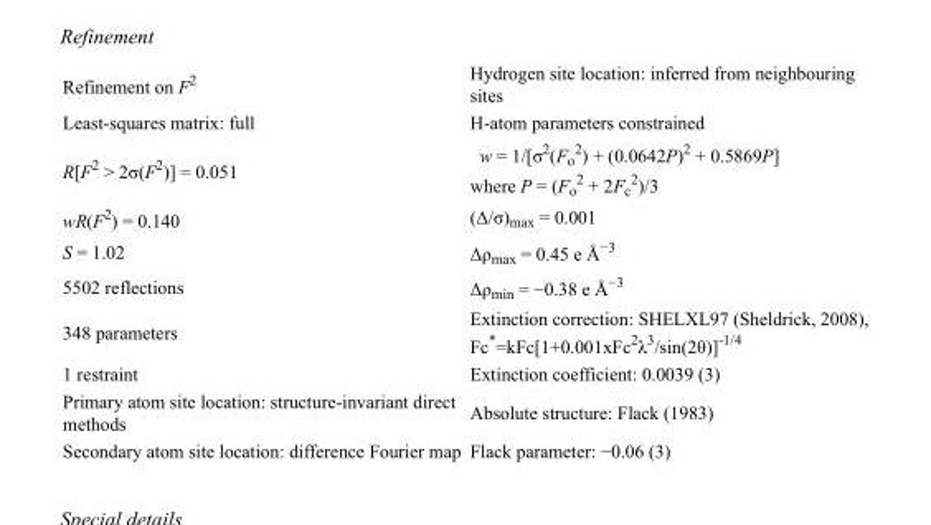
<table><tbody><tr><td>Refinement on F<sup>2</sup></td><td>Hydrogen site location: inferred from neighbouring sites</td></tr><tr><td>Least-squares matrix: full</td><td>H-atom parameters constrained</td></tr><tr><td>R[F<sup>2</sup> &gt; 2σ(F<sup>2</sup>)] = 0.051</td><td>w = 1/[σ<sup>2</sup>(F<sub>o</sub> <sup>2</sup>) + (0.0642P)<sup>2</sup> + 0.5869P] where P = (F<sub>o</sub> <sup>2</sup> + 2F<sub>c</sub> <sup>2</sup>)/3</td></tr><tr><td>wR(F<sup>2</sup>) = 0.140</td><td>(Δ/σ)<sub>max</sub> = 0.001</td></tr><tr><td>S = 1.02</td><td>Δρ<sub>max</sub> = 0.45 e Å<sup>−3</sup></td></tr><tr><td>5502 reflections</td><td>Δρ<sub>min</sub> = −0.38 e Å<sup>−3</sup></td></tr><tr><td>348 parameters</td><td>Extinction correction: SHELXL97 (Sheldrick, 2008), Fc*=kFc[1+0.001xFc<sup>2</sup>λ<sup>3</sup>/sin(2θ)]<sup>-1/4</sup></td></tr><tr><td>1 restraint</td><td>Extinction coefficient: 0.0039 (3)</td></tr><tr><td>Primary atom site location: structure-invariant direct methods</td><td>Absolute structure: Flack (1983)</td></tr><tr><td>Secondary atom site location: difference Fourier map</td><td>Flack parameter: −0.06 (3)</td></tr></tbody></table>